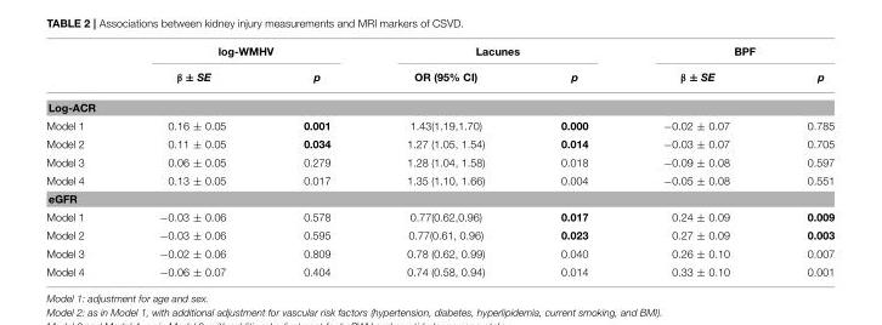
<table><thead><tr><td rowspan="2"></td><td colspan="2">log-WMHV</td><td colspan="2">Lacunes</td><td colspan="2">BPF</td></tr><tr><td>β ± SE</td><td>p</td><td>OR (95% CI)</td><td>p</td><td>β ± SE</td><td>p</td></tr></thead><tbody><tr><td colspan="7">Log-ACR</td></tr><tr><td>Model 1</td><td>0.16 ± 0.05</td><td>0.001</td><td>1.43(1.19,1.70)</td><td>0.000</td><td>−0.02 ± 0.07</td><td>0.785</td></tr><tr><td>Model 2</td><td>0.11 ± 0.05</td><td>0.034</td><td>1.27 (1.05, 1.54)</td><td>0.014</td><td>−0.03 ± 0.07</td><td>0.705</td></tr><tr><td>Model 3</td><td>0.06 ± 0.05</td><td>0.279</td><td>1.28 (1.04, 1.58)</td><td>0.018</td><td>−0.09 ± 0.08</td><td>0.597</td></tr><tr><td>Model 4</td><td>0.13 ± 0.05</td><td>0.017</td><td>1.35 (1.10, 1.66)</td><td>0.004</td><td>−0.05 ± 0.08</td><td>0.551</td></tr><tr><td colspan="7">eGFR</td></tr><tr><td>Model 1</td><td>−0.03 ± 0.06</td><td>0.578</td><td>0.77(0.62,0.96)</td><td>0.017</td><td>0.24 ± 0.09</td><td>0.009</td></tr><tr><td>Model 2</td><td>−0.03 ± 0.06</td><td>0.595</td><td>0.77(0.61, 0.96)</td><td>0.023</td><td>0.27 ± 0.09</td><td>0.003</td></tr><tr><td>Model 3</td><td>−0.02 ± 0.06</td><td>0.809</td><td>0.78 (0.62, 0.99)</td><td>0.040</td><td>0.26 ± 0.10</td><td>0.007</td></tr><tr><td>Model 4</td><td>−0.06 ± 0.07</td><td>0.404</td><td>0.74 (0.58, 0.94)</td><td>0.014</td><td>0.33 ± 0.10</td><td>0.001</td></tr></tbody></table>